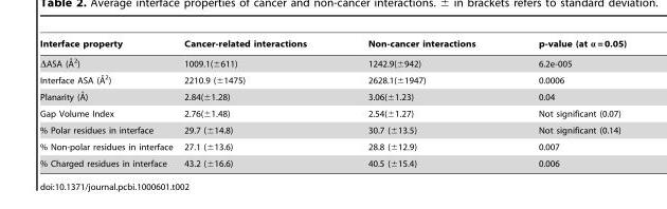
<table><thead><tr><td>Interface property</td><td>Cancer-related interactions</td><td>Non-cancer interactions</td><td>p-value (at α = 0.05)</td></tr></thead><tbody><tr><td>DASA (A˚2)</td><td>1009.1(±611)</td><td>1242.9(±942)</td><td>6.2e-005</td></tr><tr><td>Interface ASA (A˚ 2)</td><td>2210.9 (±1475)</td><td>2628.1(±1947)</td><td>0.0006</td></tr><tr><td>Planarity (A˚)</td><td>2.84(±1.28)</td><td>3.06(±1.23)</td><td>0.04</td></tr><tr><td>Gap Volume Index</td><td>2.76(±1.48)</td><td>2.54(±1.27)</td><td>Not significant (0.07)</td></tr><tr><td>% Polar residues in interface</td><td>29.7 (±14.8)</td><td>30.7 (±13.5)</td><td>Not significant (0.14)</td></tr><tr><td>% Non-polar residues in interface</td><td>27.1 (±13.6)</td><td>28.8 (±12.9)</td><td>0.007</td></tr><tr><td>% Charged residues in interface</td><td>43.2 (±16.6)</td><td>40.5 (±15.4)</td><td>0.006</td></tr></tbody></table>